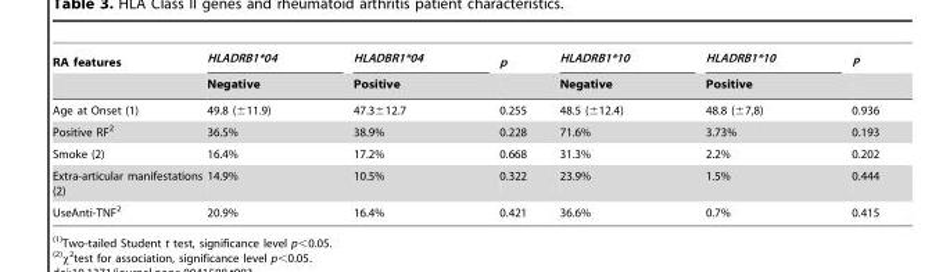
<table><thead><tr><td rowspan="2">RA features</td><td rowspan="2">HLADRB1*04 Negative</td><td rowspan="2">HLADBR1*04 Positive</td><td rowspan="2">p</td><td rowspan="2">HLADRB1*10 Negative</td><td rowspan="2">HLADRB1*10 Positive</td><td rowspan="2">P</td></tr><tr></tr></thead><tbody><tr><td>Age at Onset (1)</td><td>49.8 (±11.9)</td><td>47.3±12.7</td><td>0.255</td><td>48.5 (±12.4)</td><td>48.8 (±7,8)</td><td>0.936</td></tr><tr><td>Positive RF<sup>2</sup></td><td>36.5%</td><td>38.9%</td><td>0.228</td><td>71.6%</td><td>3.73%</td><td>0.193</td></tr><tr><td>Smoke (2)</td><td>16.4%</td><td>17.2%</td><td>0.668</td><td>31.3%</td><td>2.2%</td><td>0.202</td></tr><tr><td>Extra-articular manifestations (2)</td><td>14.9%</td><td>10.5%</td><td>0.322</td><td>23.9%</td><td>1.5%</td><td>0.444</td></tr><tr><td>UseAnti-TNF<sup>2</sup></td><td>20.9%</td><td>16.4%</td><td>0.421</td><td>36.6%</td><td>0.7%</td><td>0.415</td></tr></tbody></table>